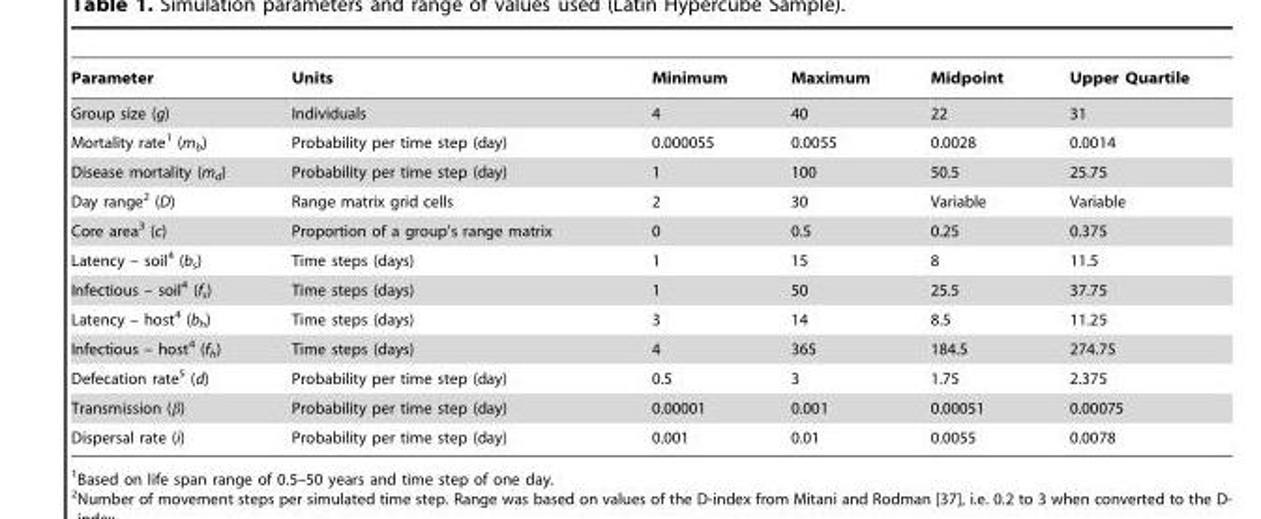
<table><thead><tr><td>Parameter</td><td>Units</td><td>Minimum</td><td>Maximum</td><td>Midpoint</td><td>Upper Quartile</td></tr></thead><tbody><tr><td>Group size (g)</td><td>Individuals</td><td>4</td><td>40</td><td>22</td><td>31</td></tr><tr><td>Mortality rate<sup>1</sup> (m<sub>b</sub>)</td><td>Probability per time step (day)</td><td>0.000055</td><td>0.0055</td><td>0.0028</td><td>0.0014</td></tr><tr><td>Disease mortality (m<sub>d</sub>)</td><td>Probability per time step (day)</td><td>1</td><td>100</td><td>50.5</td><td>25.75</td></tr><tr><td>Day range<sup>2</sup> (D)</td><td>Range matrix grid cells</td><td>2</td><td>30</td><td>Variable</td><td>Variable</td></tr><tr><td>Core area<sup>3</sup> (c)</td><td>Proportion of a group’s range matrix</td><td>0</td><td>0.5</td><td>0.25</td><td>0.375</td></tr><tr><td>Latency – soil<sup>4</sup> (b<sub>s</sub>)</td><td>Time steps (days)</td><td>1</td><td>15</td><td>8</td><td>11.5</td></tr><tr><td>Infectious – soil<sup>4</sup> (f<sub>s</sub>)</td><td>Time steps (days)</td><td>1</td><td>50</td><td>25.5</td><td>37.75</td></tr><tr><td>Latency – host<sup>4</sup> (b<sub>h</sub>)</td><td>Time steps (days)</td><td>3</td><td>14</td><td>8.5</td><td>11.25</td></tr><tr><td>Infectious – host<sup>4</sup> (f<sub>h</sub>)</td><td>Time steps (days)</td><td>4</td><td>365</td><td>184.5</td><td>274.75</td></tr><tr><td>Defecation rate<sup>5</sup> (d)</td><td>Probability per time step (day)</td><td>0.5</td><td>3</td><td>1.75</td><td>2.375</td></tr><tr><td>Transmission (β)</td><td>Probability per time step (day)</td><td>0.00001</td><td>0.001</td><td>0.00051</td><td>0.00075</td></tr><tr><td>Dispersal rate (i)</td><td>Probability per time step (day)</td><td>0.001</td><td>0.01</td><td>0.0055</td><td>0.0078</td></tr></tbody></table>